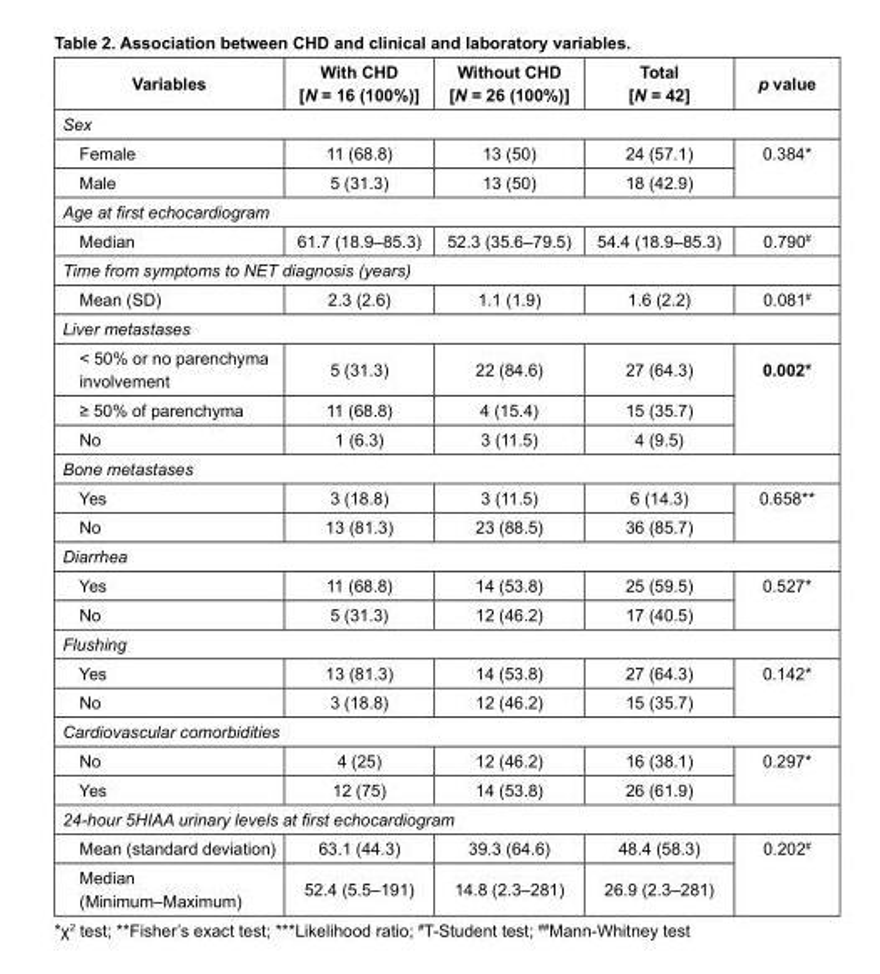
<table><thead><tr><td>Variables</td><td>With CHD [N = 16 (100%)]</td><td>Without CHD [N = 26 (100%)]</td><td>Total [N = 42]</td><td>p value</td></tr></thead><tbody><tr><td colspan="5">Sex</td></tr><tr><td>Female</td><td>11 (68.8)</td><td>13 (50)</td><td>24 (57.1)</td><td rowspan="2">0.384*</td></tr><tr><td>Male</td><td>5 (31.3)</td><td>13 (50)</td><td>18 (42.9)</td></tr><tr><td colspan="5">Age at first echocardiogram</td></tr><tr><td>Median</td><td>61.7 (18.9–85.3)</td><td>52.3 (35.6–79.5)</td><td>54.4 (18.9–85.3)</td><td>0.790<sup>#</sup></td></tr><tr><td colspan="5">Time from symptoms to NET diagnosis (years)</td></tr><tr><td>Mean (SD)</td><td>2.3 (2.6)</td><td>1.1 (1.9)</td><td>1.6 (2.2)</td><td>0.081<sup>#</sup></td></tr><tr><td colspan="5">Liver metastases</td></tr><tr><td>&lt; 50% or no parenchyma involvement</td><td>5 (31.3)</td><td>22 (84.6)</td><td>27 (64.3)</td><td rowspan="3">0.002*</td></tr><tr><td>≥ 50% of parenchyma</td><td>11 (68.8)</td><td>4 (15.4)</td><td>15 (35.7)</td></tr><tr><td>No</td><td>1 (6.3)</td><td>3 (11.5)</td><td>4 (9.5)</td></tr><tr><td colspan="5">Bone metastases</td></tr><tr><td>Yes</td><td>3 (18.8)</td><td>3 (11.5)</td><td>6 (14.3)</td><td rowspan="2">0.658**</td></tr><tr><td>No</td><td>13 (81.3)</td><td>23 (88.5)</td><td>36 (85.7)</td></tr><tr><td colspan="5">Diarrhea</td></tr><tr><td>Yes</td><td>11 (68.8)</td><td>14 (53.8)</td><td>25 (59.5)</td><td rowspan="2">0.527*</td></tr><tr><td>No</td><td>5 (31.3)</td><td>12 (46.2)</td><td>17 (40.5)</td></tr><tr><td colspan="5">Flushing</td></tr><tr><td>Yes</td><td>13 (81.3)</td><td>14 (53.8)</td><td>27 (64.3)</td><td rowspan="2">0.142*</td></tr><tr><td>No</td><td>3 (18.8)</td><td>12 (46.2)</td><td>15 (35.7)</td></tr><tr><td colspan="5">Cardiovascular comorbidities</td></tr><tr><td>No</td><td>4 (25)</td><td>12 (46.2)</td><td>16 (38.1)</td><td rowspan="2">0.297*</td></tr><tr><td>Yes</td><td>12 (75)</td><td>14 (53.8)</td><td>26 (61.9)</td></tr><tr><td colspan="5">24-hour 5HIAA urinary levels at first echocardiogram</td></tr><tr><td>Mean (standard deviation)</td><td>63.1 (44.3)</td><td>39.3 (64.6)</td><td>48.4 (58.3)</td><td rowspan="2">0.202<sup>#</sup></td></tr><tr><td>Median (Minimum–Maximum)</td><td>52.4 (5.5–191)</td><td>14.8 (2.3–281)</td><td>26.9 (2.3–281)</td></tr></tbody></table>